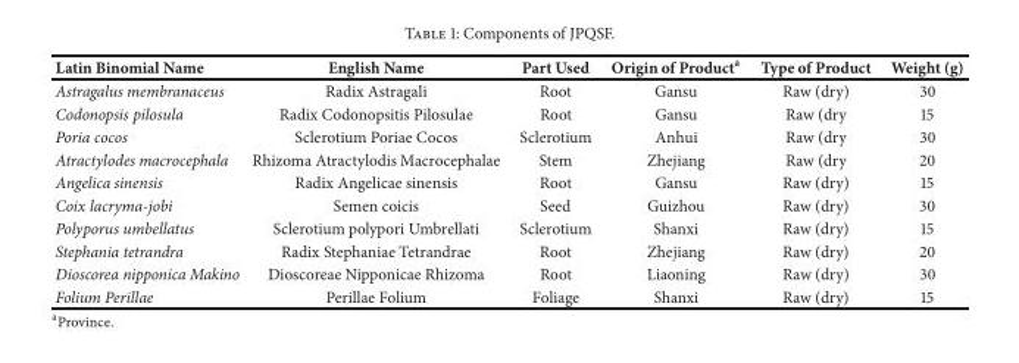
<table><thead><tr><td>Latin Binomial Name</td><td>English Name</td><td>Part Used</td><td>Origin of Product<sup>a</sup></td><td>Type of Product</td><td>Weight (g)</td></tr></thead><tbody><tr><td>Astragalus membranaceus</td><td>Radix Astragali</td><td>Root</td><td>Gansu</td><td>Raw (dry)</td><td>30</td></tr><tr><td>Codonopsis pilosula</td><td>Radix Codonopsitis Pilosulae</td><td>Root</td><td>Gansu</td><td>Raw (dry</td><td>15</td></tr><tr><td>Poria cocos</td><td>Sclerotium Poriae Cocos</td><td>Sclerotium</td><td>Anhui</td><td>Raw (dry</td><td>30</td></tr><tr><td>Atractylodes macrocephala</td><td>Rhizoma Atractylodis Macrocephalae</td><td>Stem</td><td>Zhejiang</td><td>Raw (dry</td><td>20</td></tr><tr><td>Angelica sinensis</td><td>Radix Angelicae sinensis</td><td>Root</td><td>Gansu</td><td>Raw (dry)</td><td>15</td></tr><tr><td>Coix lacryma-jobi</td><td>Semen coicis</td><td>Seed</td><td>Guizhou</td><td>Raw (dry)</td><td>30</td></tr><tr><td>Polyporus umbellatus</td><td>Sclerotium polypori Umbrellati</td><td>Sclerotium</td><td>Shanxi</td><td>Raw (dry)</td><td>15</td></tr><tr><td>Stephania tetrandra</td><td>Radix Stephaniae Tetrandrae</td><td>Root</td><td>Zhejiang</td><td>Raw (dry)</td><td>20</td></tr><tr><td>Dioscorea nipponica Makino</td><td>Dioscoreae Nipponicae Rhizoma</td><td>Root</td><td>Liaoning</td><td>Raw (dry)</td><td>30</td></tr><tr><td>Folium Perillae</td><td>Perillae Folium</td><td>Foliage</td><td>Shanxi</td><td>Raw (dry)</td><td>15</td></tr></tbody></table>